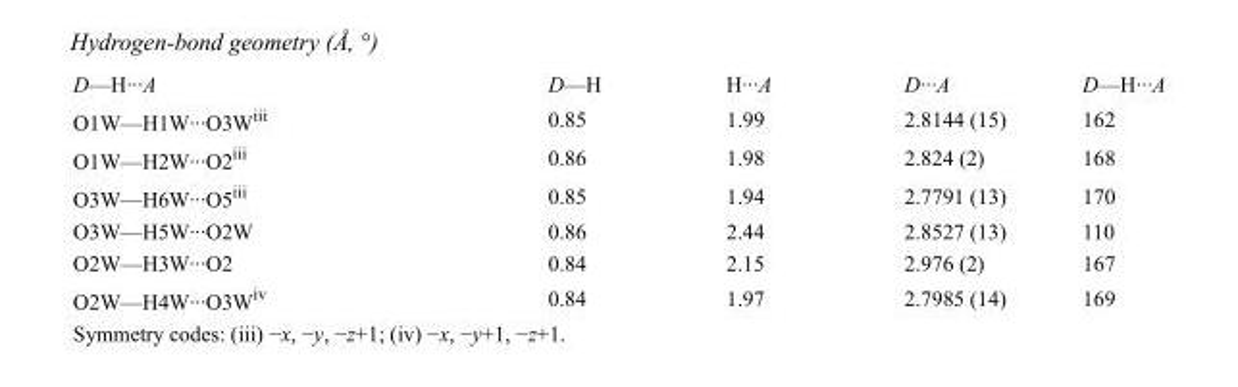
<table><tbody><tr><td>D—H···A</td><td>D—H</td><td>H···A</td><td>D···A</td><td>D—H···A</td></tr><tr><td>O1W—H1W···O3W<sup>iii</sup></td><td>0.85</td><td>1.99</td><td>2.8144 (15)</td><td>162</td></tr><tr><td>O1W—H2W···O2<sup>iii</sup></td><td>0.86</td><td>1.98</td><td>2.824 (2)</td><td>168</td></tr><tr><td>O3W—H6W···O5<sup>iii</sup></td><td>0.85</td><td>1.94</td><td>2.7791 (13)</td><td>170</td></tr><tr><td>O3W—H5W···O2W</td><td>0.86</td><td>2.44</td><td>2.8527 (13)</td><td>110</td></tr><tr><td>O2W—H3W···O2</td><td>0.84</td><td>2.15</td><td>2.976 (2)</td><td>167</td></tr><tr><td>O2W—H4W···O3W<sup>iv</sup></td><td>0.84</td><td>1.97</td><td>2.7985 (14)</td><td>169</td></tr></tbody></table>